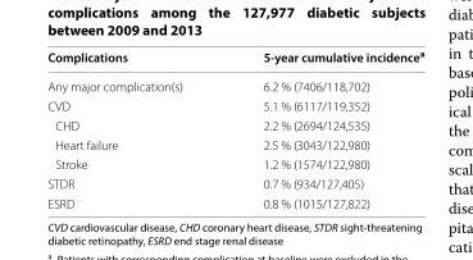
<table><thead><tr><td>Complications</td><td>5‑year cumulative incidence<sup>a</sup></td></tr></thead><tbody><tr><td>Any major complication(s)</td><td>6.2 % (7406/118,702)</td></tr><tr><td>CVD</td><td>5.1 % (6117/119,352)</td></tr><tr><td>CHD</td><td>2.2 % (2694/124,535)</td></tr><tr><td>Heart failure</td><td>2.5 % (3043/122,980)</td></tr><tr><td>Stroke</td><td>1.2 % (1574/122,980)</td></tr><tr><td>STDR</td><td>0.7 % (934/127,405)</td></tr><tr><td>ESRD</td><td>0.8 % (1015/127,822)</td></tr></tbody></table>